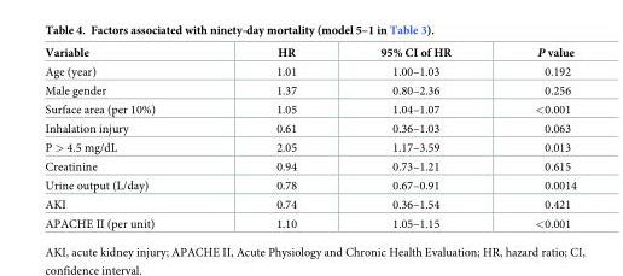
<table><thead><tr><td>Variable</td><td>HR</td><td>95% CI of HR</td><td>P value</td></tr></thead><tbody><tr><td>Age (year)</td><td>1.01</td><td>1.00–1.03</td><td>0.192</td></tr><tr><td>Male gender</td><td>1.37</td><td>0.80–2.36</td><td>0.256</td></tr><tr><td>Surface area (per 10%)</td><td>1.05</td><td>1.04–1.07</td><td>&lt;0.001</td></tr><tr><td>Inhalation injury</td><td>0.61</td><td>0.36–1.03</td><td>0.063</td></tr><tr><td>P &gt; 4.5 mg/dL</td><td>2.05</td><td>1.17–3.59</td><td>0.013</td></tr><tr><td>Creatinine</td><td>0.94</td><td>0.73–1.21</td><td>0.615</td></tr><tr><td>Urine output (L/day)</td><td>0.78</td><td>0.67–0.91</td><td>0.0014</td></tr><tr><td>AKI</td><td>0.74</td><td>0.36–1.54</td><td>0.421</td></tr><tr><td>APACHE II (per unit)</td><td>1.10</td><td>1.05–1.15</td><td>&lt;0.001</td></tr></tbody></table>